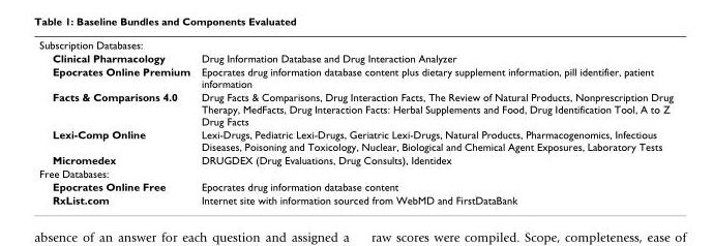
<table><tbody><tr><td colspan="2">Subscription Databases:</td></tr><tr><td>Clinical Pharmacology</td><td>Drug Information Database and Drug Interaction Analyzer</td></tr><tr><td>Epocrates Online Premium</td><td>Epocrates drug information database content plus dietary supplement information, pill identifier, patient information</td></tr><tr><td>Facts &amp; Comparisons 4.0</td><td>Drug Facts &amp; Comparisons, Drug Interaction Facts, The Review of Natural Products, Nonprescription Drug Therapy, MedFacts, Drug Interaction Facts: Herbal Supplements and Food, Drug Identification Tool, A to Z Drug Facts</td></tr><tr><td>Lexi-Comp Online</td><td>Lexi-Drugs, Pediatric Lexi-Drugs, Geriatric Lexi-Drugs, Natural Products, Pharmacogenomics, Infectious Diseases, Poisoning and Toxicology, Nuclear, Biological and Chemical Agent Exposures, Laboratory Tests</td></tr><tr><td>Micromedex</td><td>DRUGDEX (Drug Evaluations, Drug Consults), Identidex</td></tr><tr><td colspan="2">Free Databases:</td></tr><tr><td>Epocrates Online Free</td><td>Epocrates drug information database content</td></tr><tr><td>RxList.com</td><td>Internet site with information sourced from WebMD and FirstDataBank</td></tr></tbody></table>